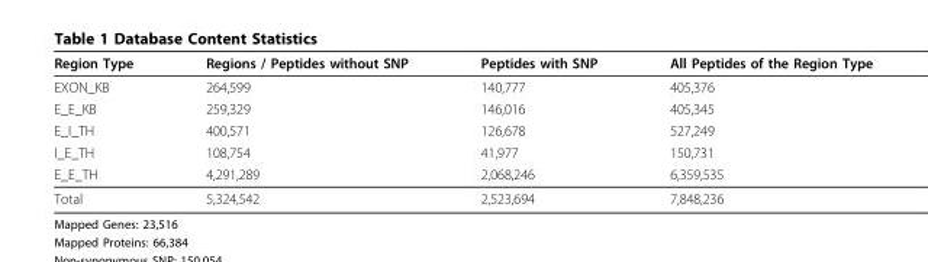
<table><thead><tr><td>Region Type</td><td>Regions / Peptides without SNP</td><td>Peptides with SNP</td><td>All Peptides of the Region Type</td></tr></thead><tbody><tr><td>EXON_KB</td><td>264,599</td><td>140,777</td><td>405,376</td></tr><tr><td>E_E_KB</td><td>259,329</td><td>146,016</td><td>405,345</td></tr><tr><td>E_I_TH</td><td>400,571</td><td>126,678</td><td>527,249</td></tr><tr><td>I_E_TH</td><td>108,754</td><td>41,977</td><td>150,731</td></tr><tr><td>E_E_TH</td><td>4,291,289</td><td>2,068,246</td><td>6,359,535</td></tr><tr><td>Total</td><td>5,324,542</td><td>2,523,694</td><td>7,848,236</td></tr></tbody></table>